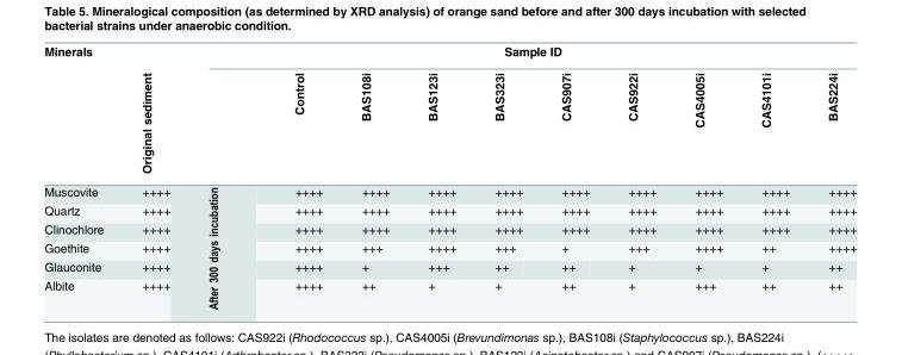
<table><thead><tr><td rowspan="2">Minerals</td><td rowspan="2">Original sediment</td><td colspan="10">Sample ID</td></tr><tr><td></td><td>Control</td><td>BAS108i</td><td>BAS123i</td><td>BAS323i</td><td>CAS907i</td><td>CAS922i</td><td>CAS4005i</td><td>CAS4101i</td><td>BAS224i</td></tr></thead><tbody><tr><td>Muscovite</td><td>++++</td><td rowspan="6">After 300 days incubation</td><td>++++</td><td>++++</td><td>++++</td><td>++++</td><td>++++</td><td>++++</td><td>++++</td><td>++++</td><td>++++</td></tr><tr><td>Quartz</td><td>++++</td><td>++++</td><td>++++</td><td>++++</td><td>++++</td><td>++++</td><td>++++</td><td>++++</td><td>++++</td><td>++++</td></tr><tr><td>Clinochlore</td><td>++++</td><td>++++</td><td>++++</td><td>++++</td><td>++++</td><td>++++</td><td>++++</td><td>++++</td><td>++++</td><td>++++</td></tr><tr><td>Goethite</td><td>++++</td><td>++++</td><td>+++</td><td>++++</td><td>+++</td><td>+</td><td>+++</td><td>++++</td><td>++</td><td>++++</td></tr><tr><td>Glauconite</td><td>++++</td><td>++++</td><td>+</td><td>+++</td><td>++</td><td>++</td><td>+</td><td>+</td><td>+</td><td>++</td></tr><tr><td>Albite</td><td>++++</td><td>++++</td><td>++</td><td>+</td><td>+</td><td>++</td><td>+</td><td>+++</td><td>++</td><td>++</td></tr></tbody></table>